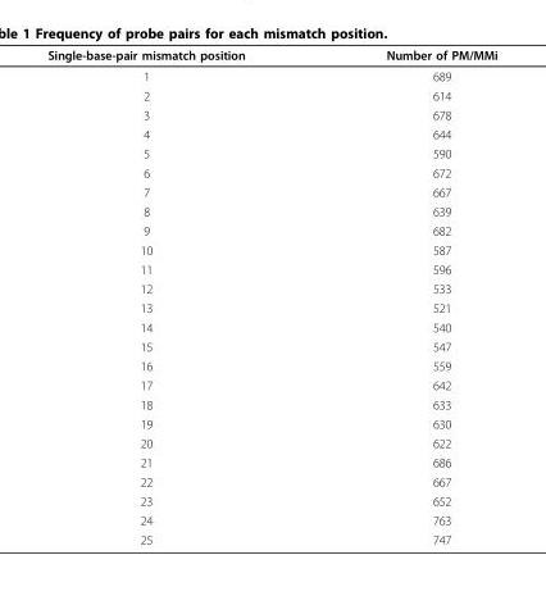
<table><thead><tr><td>Single-base-pair mismatch position</td><td>Number of PM/MMi</td></tr></thead><tbody><tr><td>1</td><td>689</td></tr><tr><td>2</td><td>614</td></tr><tr><td>3</td><td>678</td></tr><tr><td>4</td><td>644</td></tr><tr><td>5</td><td>590</td></tr><tr><td>6</td><td>672</td></tr><tr><td>7</td><td>667</td></tr><tr><td>8</td><td>639</td></tr><tr><td>9</td><td>682</td></tr><tr><td>10</td><td>587</td></tr><tr><td>11</td><td>596</td></tr><tr><td>12</td><td>533</td></tr><tr><td>13</td><td>521</td></tr><tr><td>14</td><td>540</td></tr><tr><td>15</td><td>547</td></tr><tr><td>16</td><td>559</td></tr><tr><td>17</td><td>642</td></tr><tr><td>18</td><td>633</td></tr><tr><td>19</td><td>630</td></tr><tr><td>20</td><td>622</td></tr><tr><td>21</td><td>686</td></tr><tr><td>22</td><td>667</td></tr><tr><td>23</td><td>652</td></tr><tr><td>24</td><td>763</td></tr><tr><td>25</td><td>747</td></tr></tbody></table>